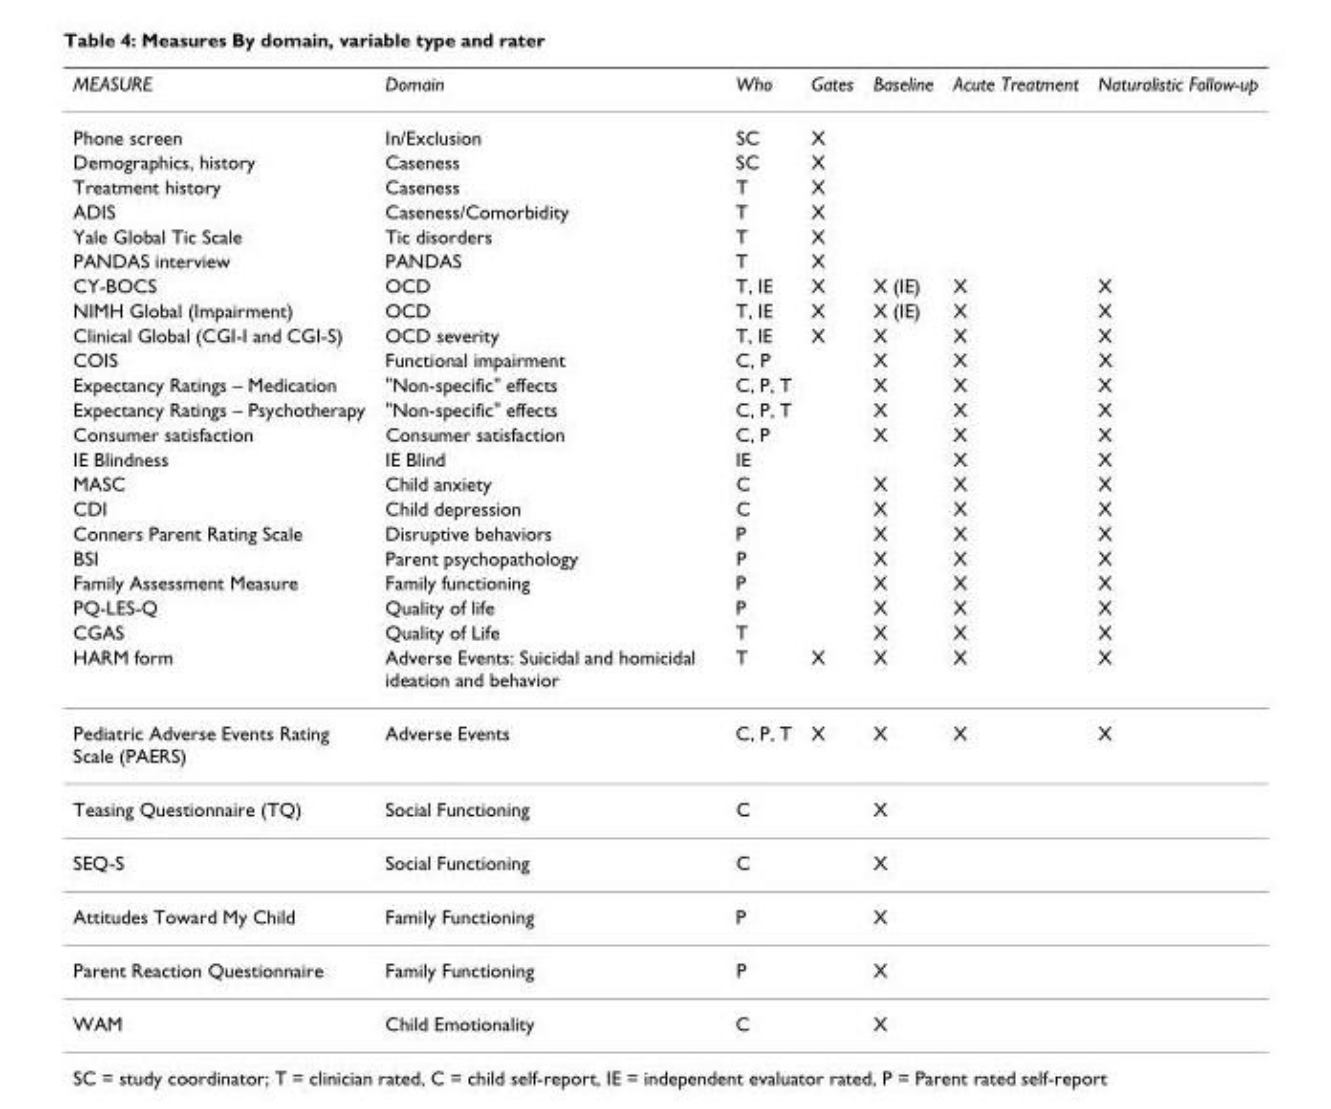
<table><thead><tr><td>MEASURE</td><td>Domain</td><td>Who</td><td>Gates</td><td>Baseline</td><td>Acute Treatment</td><td>Naturalistic Follow-up</td></tr></thead><tbody><tr><td>Phone screen</td><td>In/Exclusion</td><td>SC</td><td>X</td><td></td><td></td><td></td></tr><tr><td>Demographics, history</td><td>Caseness</td><td>SC</td><td>X</td><td></td><td></td><td></td></tr><tr><td>Treatment history</td><td>Caseness</td><td>T</td><td>X</td><td></td><td></td><td></td></tr><tr><td>ADIS</td><td>Caseness/Comorbidity</td><td>T</td><td>X</td><td></td><td></td><td></td></tr><tr><td>Yale Global Tic Scale</td><td>Tic disorders</td><td>T</td><td>X</td><td></td><td></td><td></td></tr><tr><td>PANDAS interview</td><td>PANDAS</td><td>T</td><td>X</td><td></td><td></td><td></td></tr><tr><td>CY-BOCS</td><td>OCD</td><td>T, IE</td><td>X</td><td>X (IE)</td><td>X</td><td>X</td></tr><tr><td>NIMH Global (Impairment)</td><td>OCD</td><td>T, IE</td><td>X</td><td>X (IE)</td><td>X</td><td>X</td></tr><tr><td>Clinical Global (CGI-I and CGI-S)</td><td>OCD severity</td><td>T, IE</td><td>X</td><td>X</td><td>X</td><td>X</td></tr><tr><td>COIS</td><td>Functional impairment</td><td>C, P</td><td></td><td>X</td><td>X</td><td>X</td></tr><tr><td>Expectancy Ratings – Medication</td><td>&quot;Non-specific&quot; effects</td><td>C, P, T</td><td></td><td>X</td><td>X</td><td>X</td></tr><tr><td>Expectancy Ratings – Psychotherapy</td><td>&quot;Non-specific&quot; effects</td><td>C, P, T</td><td></td><td>X</td><td>X</td><td>X</td></tr><tr><td>Consumer satisfaction</td><td>Consumer satisfaction</td><td>C, P</td><td></td><td>X</td><td>X</td><td>X</td></tr><tr><td>IE Blindness</td><td>IE Blind</td><td>IE</td><td></td><td></td><td>X</td><td>X</td></tr><tr><td>MASC</td><td>Child anxiety</td><td>C</td><td></td><td>X</td><td>X</td><td>X</td></tr><tr><td>CDI</td><td>Child depression</td><td>C</td><td></td><td>X</td><td>X</td><td>X</td></tr><tr><td>Conners Parent Rating Scale</td><td>Disruptive behaviors</td><td>P</td><td></td><td>X</td><td>X</td><td>X</td></tr><tr><td>BSI</td><td>Parent psychopathology</td><td>P</td><td></td><td>X</td><td>X</td><td>X</td></tr><tr><td>Family Assessment Measure</td><td>Family functioning</td><td>P</td><td></td><td>X</td><td>X</td><td>X</td></tr><tr><td>PQ-LES-Q</td><td>Quality of life</td><td>P</td><td></td><td>X</td><td>X</td><td>X</td></tr><tr><td>CGAS</td><td>Quality of Life</td><td>T</td><td></td><td>X</td><td>X</td><td>X</td></tr><tr><td>HARM form</td><td>Adverse Events: Suicidal and homicidal ideation and behavior</td><td>T</td><td>X</td><td>X</td><td>X</td><td>X</td></tr><tr><td>Pediatric Adverse Events Rating Scale (PAERS)</td><td>Adverse Events</td><td>C, P, T</td><td>X</td><td>X</td><td>X</td><td>X</td></tr><tr><td>Teasing Questionnaire (TQ)</td><td>Social Functioning</td><td>C</td><td></td><td>X</td><td></td><td></td></tr><tr><td>SEQ-S</td><td>Social Functioning</td><td>C</td><td></td><td>X</td><td></td><td></td></tr><tr><td>Attitudes Toward My Child</td><td>Family Functioning</td><td>P</td><td></td><td>X</td><td></td><td></td></tr><tr><td>Parent Reaction Questionnaire</td><td>Family Functioning</td><td>P</td><td></td><td>X</td><td></td><td></td></tr><tr><td>WAM</td><td>Child Emotionality</td><td>C</td><td></td><td>X</td><td></td><td></td></tr></tbody></table>